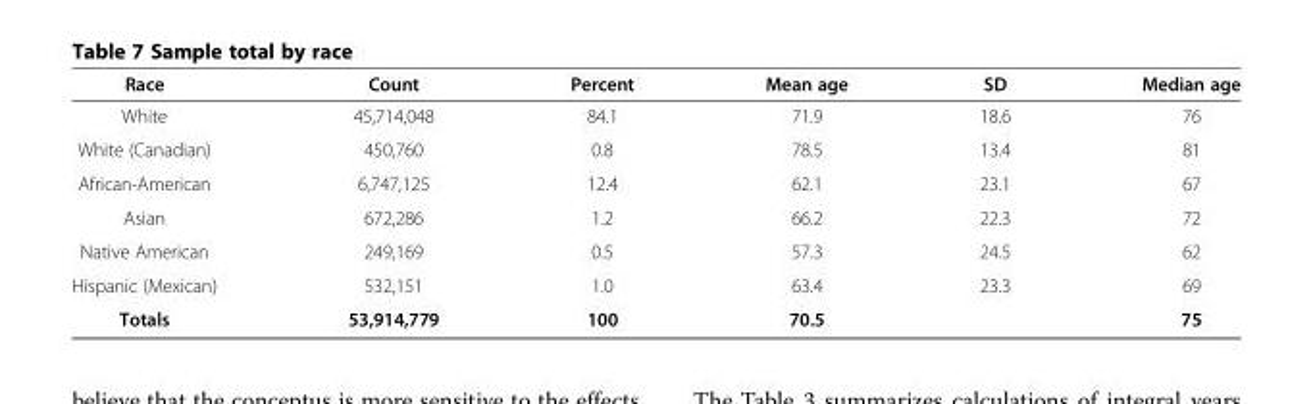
<table><thead><tr><td>Race</td><td>Count</td><td>Percent</td><td>Mean age</td><td>SD</td><td>Median age</td></tr></thead><tbody><tr><td>White</td><td>45,714,048</td><td>84.1</td><td>71.9</td><td>18.6</td><td>76</td></tr><tr><td>White (Canadian)</td><td>450,760</td><td>0.8</td><td>78.5</td><td>13.4</td><td>81</td></tr><tr><td>African-American</td><td>6,747,125</td><td>12.4</td><td>62.1</td><td>23.1</td><td>67</td></tr><tr><td>Asian</td><td>672,286</td><td>1.2</td><td>66.2</td><td>22.3</td><td>72</td></tr><tr><td>Native American</td><td>249,169</td><td>0.5</td><td>57.3</td><td>24.5</td><td>62</td></tr><tr><td>Hispanic (Mexican)</td><td>532,151</td><td>1.0</td><td>63.4</td><td>23.3</td><td>69</td></tr><tr><td>Totals</td><td>53,914,779</td><td>100</td><td>70.5</td><td></td><td>75</td></tr></tbody></table>